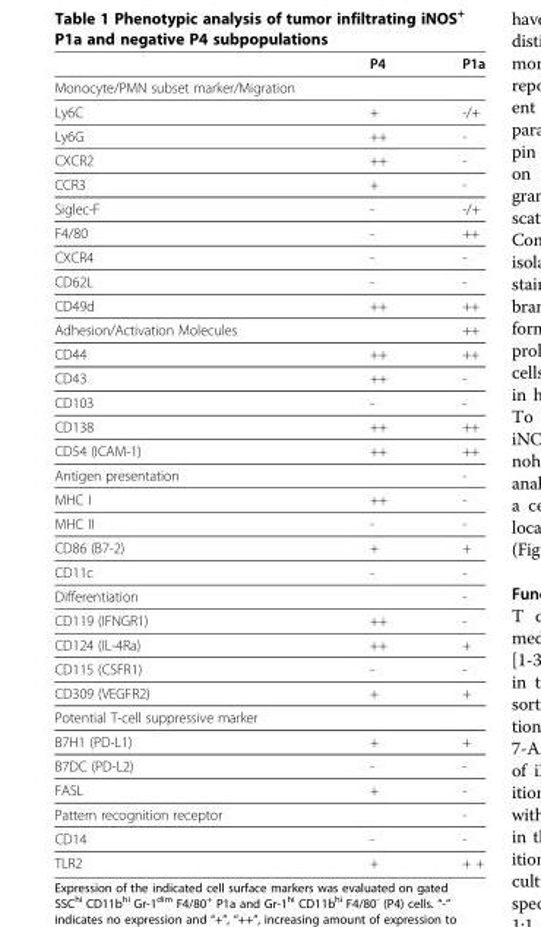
<table><thead><tr><td></td><td>P4</td><td>P1a</td></tr></thead><tbody><tr><td colspan="3">Monocyte/PMN subset marker/Migration</td></tr><tr><td>Ly6C</td><td>+</td><td>-/+</td></tr><tr><td>Ly6G</td><td>++</td><td>-</td></tr><tr><td>CXCR2</td><td>++</td><td>-</td></tr><tr><td>CCR3</td><td>+</td><td>-</td></tr><tr><td>Siglec-F</td><td>-</td><td>-/+</td></tr><tr><td>F4/80</td><td>-</td><td>++</td></tr><tr><td>CXCR4</td><td>-</td><td>-</td></tr><tr><td>CD62L</td><td>-</td><td>-</td></tr><tr><td>CD49d</td><td>++</td><td>++</td></tr><tr><td>Adhesion/Activation Molecules</td><td></td><td>++</td></tr><tr><td>CD44</td><td>++</td><td>++</td></tr><tr><td>CD43</td><td>++</td><td>-</td></tr><tr><td>CD103</td><td>-</td><td>-</td></tr><tr><td>CD138</td><td>++</td><td>++</td></tr><tr><td>CD54 (ICAM-1)</td><td>++</td><td>++</td></tr><tr><td>Antigen presentation</td><td></td><td>-</td></tr><tr><td>MHC I</td><td>++</td><td>-</td></tr><tr><td>MHC II</td><td>-</td><td>-</td></tr><tr><td>CD86 (B7-2)</td><td>+</td><td>+</td></tr><tr><td>CD11c</td><td>-</td><td>-</td></tr><tr><td>Differentiation</td><td></td><td>-</td></tr><tr><td>CD119 (IFNGR1)</td><td>++</td><td>-</td></tr><tr><td>CD124 (IL-4Ra)</td><td>++</td><td>+</td></tr><tr><td>CD115 (CSFR1)</td><td>-</td><td>-</td></tr><tr><td>CD309 (VEGFR2)</td><td>+</td><td>+</td></tr><tr><td colspan="3">Potential T-cell suppressive marker</td></tr><tr><td>B7H1 (PD-L1)</td><td>+</td><td>+</td></tr><tr><td>B7DC (PD-L2)</td><td>-</td><td>-</td></tr><tr><td>FASL</td><td>+</td><td>-</td></tr><tr><td>Pattern recognition receptor</td><td></td><td>-</td></tr><tr><td>CD14</td><td>-</td><td>-</td></tr><tr><td>TLR2</td><td>+</td><td>+ +</td></tr></tbody></table>